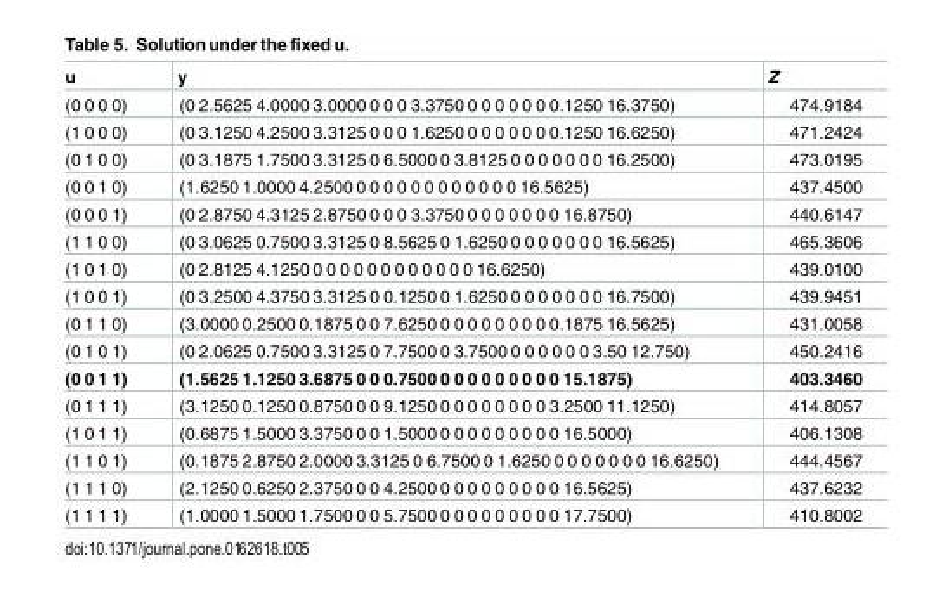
<table><thead><tr><td>u</td><td>y</td><td>Z</td></tr></thead><tbody><tr><td>(0 0 0 0)</td><td>(0 2.5625 4.0000 3.0000 0 0 0 3.3750 0 0 0 0 0 0 0.1250 16.3750)</td><td>474.9184</td></tr><tr><td>(1 0 0 0)</td><td>(0 3.1250 4.2500 3.3125 0 0 0 1.6250 0 0 0 0 0 0 0.1250 16.6250)</td><td>471.2424</td></tr><tr><td>(0 1 0 0)</td><td>(0 3.1875 1.7500 3.3125 0 6.5000 0 3.8125 0 0 0 0 0 0 0 16.2500)</td><td>473.0195</td></tr><tr><td>(0 0 1 0)</td><td>(1.6250 1.0000 4.2500 0 0 0 0 0 0 0 0 0 0 0 0 16.5625)</td><td>437.4500</td></tr><tr><td>(0 0 0 1)</td><td>(0 2.8750 4.3125 2.8750 0 0 0 3.3750 0 0 0 0 0 0 0 16.8750)</td><td>440.6147</td></tr><tr><td>(1 1 0 0)</td><td>(0 3.0625 0.7500 3.3125 0 8.5625 0 1.6250 0 0 0 0 0 0 0 16.5625)</td><td>465.3606</td></tr><tr><td>(1 0 1 0)</td><td>(0 2.8125 4.1250 0 0 0 0 0 0 0 0 0 0 0 0 16.6250)</td><td>439.0100</td></tr><tr><td>(1 0 0 1)</td><td>(0 3.2500 4.3750 3.3125 0 0.1250 0 1.6250 0 0 0 0 0 0 0 16.7500)</td><td>439.9451</td></tr><tr><td>(0 1 1 0)</td><td>(3.0000 0.2500 0.1875 0 0 7.6250 0 0 0 0 0 0 0 0 0.1875 16.5625)</td><td>431.0058</td></tr><tr><td>(0 1 0 1)</td><td>(0 2.0625 0.7500 3.3125 0 7.7500 0 3.7500 0 0 0 0 0 0 3.50 12.750)</td><td>450.2416</td></tr><tr><td>(0 0 1 1)</td><td>(1.5625 1.1250 3.6875 0 0 0.7500 0 0 0 0 0 0 0 0 0 15.1875)</td><td>403.3460</td></tr><tr><td>(0 1 1 1)</td><td>(3.1250 0.1250 0.8750 0 0 9.1250 0 0 0 0 0 0 0 0 3.2500 11.1250)</td><td>414.8057</td></tr><tr><td>(1 0 1 1)</td><td>(0.6875 1.5000 3.3750 0 0 1.5000 0 0 0 0 0 0 0 0 0 16.5000)</td><td>406.1308</td></tr><tr><td>(1 1 0 1)</td><td>(0.1875 2.8750 2.0000 3.3125 0 6.7500 0 1.6250 0 0 0 0 0 0 0 16.6250)</td><td>444.4567</td></tr><tr><td>(1 1 1 0)</td><td>(2.1250 0.6250 2.3750 0 0 4.2500 0 0 0 0 0 0 0 0 0 16.5625)</td><td>437.6232</td></tr><tr><td>(1 1 1 1)</td><td>(1.0000 1.5000 1.7500 0 0 5.7500 0 0 0 0 0 0 0 0 0 17.7500)</td><td>410.8002</td></tr></tbody></table>